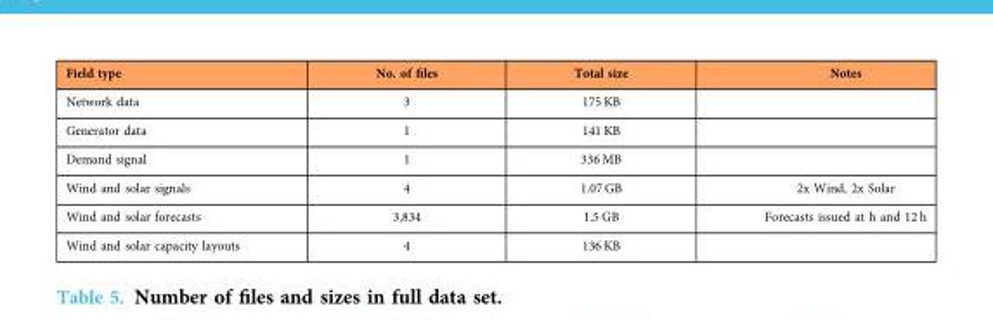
<table><thead><tr><td>Field type</td><td>No. of files</td><td>Total size</td><td>Notes</td></tr></thead><tbody><tr><td>Network data</td><td>3</td><td>175 KB</td><td></td></tr><tr><td>Generator data</td><td>1</td><td>141 KB</td><td></td></tr><tr><td>Demand signal</td><td>1</td><td>336 MB</td><td></td></tr><tr><td>Wind and solar signals</td><td>4</td><td>1.07 GB</td><td>2x Wind, 2x Solar</td></tr><tr><td>Wind and solar forecasts</td><td>3,834</td><td>1.5 GB</td><td>Forecasts issued at h and 12 h</td></tr><tr><td>Wind and solar capacity layouts</td><td>4</td><td>136 KB</td><td></td></tr></tbody></table>